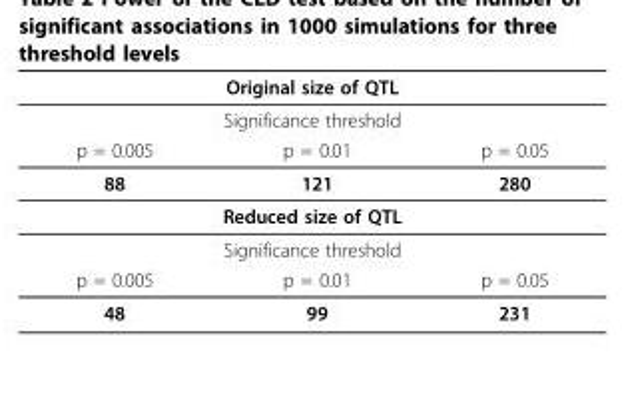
<table><thead><tr><td rowspan="2" colspan="3">Original size of QTL Significance threshold</td></tr><tr></tr><tr><td>p = 0.005</td><td>p = 0.01</td><td>p = 0.05</td></tr></thead><tbody><tr><td>88</td><td>121</td><td>280</td></tr><tr><td colspan="3">Reduced size of QTL</td></tr><tr><td colspan="3">Significance threshold</td></tr><tr><td>p = 0.005</td><td>p = 0.01</td><td>p = 0.05</td></tr><tr><td>48</td><td>99</td><td>231</td></tr></tbody></table>